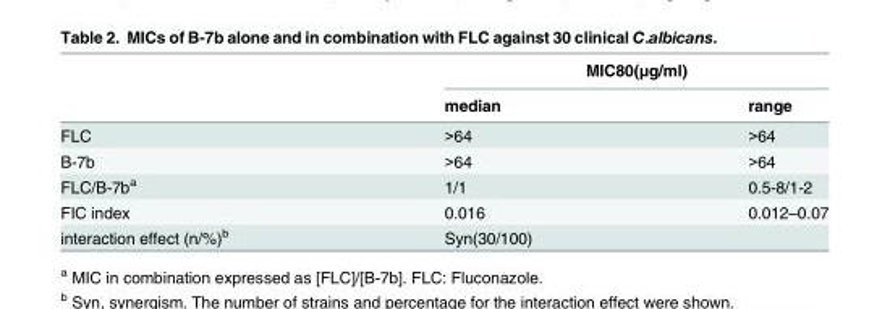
<table><thead><tr><td rowspan="2"></td><td colspan="2">MIC80(μg/ml)</td></tr><tr><td>median</td><td>range</td></tr></thead><tbody><tr><td>FLC</td><td>&gt;64</td><td>&gt;64</td></tr><tr><td>B-7b</td><td>&gt;64</td><td>&gt;64</td></tr><tr><td>FLC/B-7b<sup>a</sup></td><td>1/1</td><td>0.5-8/1-2</td></tr><tr><td>FIC index</td><td>0.016</td><td>0.012–0.07</td></tr><tr><td>interaction effect (n/%)<sup>b</sup></td><td>Syn(30/100)</td><td></td></tr></tbody></table>